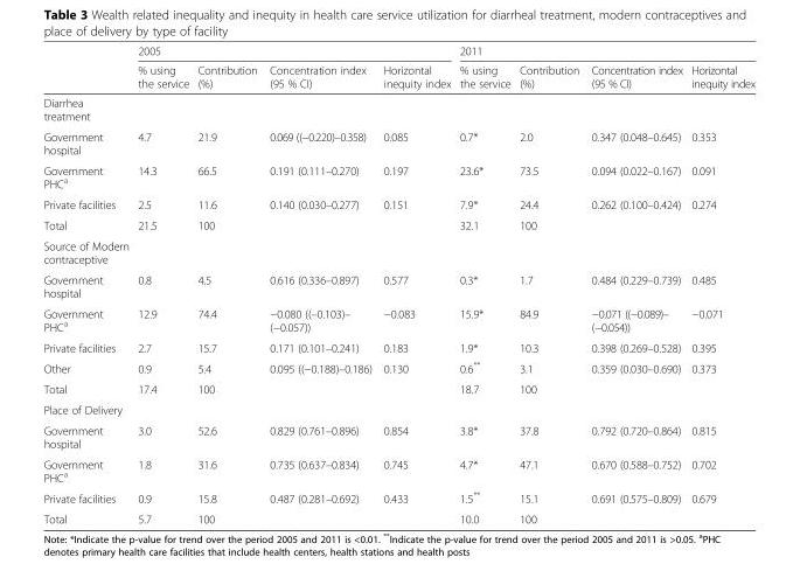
<table><thead><tr><td rowspan="2"></td><td colspan="4">2005</td><td colspan="4">2011</td></tr><tr><td>% using the service</td><td>Contribution (%)</td><td>Concentration index (95 % CI)</td><td>Horizontal inequity index</td><td>% using the service</td><td>Contribution (%)</td><td>Concentration index (95 % CI)</td><td>Horizontal inequity index</td></tr></thead><tbody><tr><td colspan="9">Diarrhea treatment</td></tr><tr><td>Government hospital</td><td>4.7</td><td>21.9</td><td>0.069 ((−0.220)–0.358)</td><td>0.085</td><td>0.7*</td><td>2.0</td><td>0.347 (0.048–0.645)</td><td>0.353</td></tr><tr><td>Government PHC<sup>a</sup></td><td>14.3</td><td>66.5</td><td>0.191 (0.111–0.270)</td><td>0.197</td><td>23.6*</td><td>73.5</td><td>0.094 (0.022–0.167)</td><td>0.091</td></tr><tr><td>Private facilities</td><td>2.5</td><td>11.6</td><td>0.140 (0.030–0.277)</td><td>0.151</td><td>7.9*</td><td>24.4</td><td>0.262 (0.100–0.424)</td><td>0.274</td></tr><tr><td>Total</td><td>21.5</td><td>100</td><td></td><td></td><td>32.1</td><td>100</td><td></td><td></td></tr><tr><td colspan="9">Source of Modern contraceptive</td></tr><tr><td>Government hospital</td><td>0.8</td><td>4.5</td><td>0.616 (0.336–0.897)</td><td>0.577</td><td>0.3*</td><td>1.7</td><td>0.484 (0.229–0.739)</td><td>0.485</td></tr><tr><td>Government PHC<sup>a</sup></td><td>12.9</td><td>74.4</td><td>−0.080 ((–0.103)– (−0.057))</td><td>−0.083</td><td>15.9*</td><td>84.9</td><td>−0.071 ((−0.089)– (−0.054))</td><td>−0.071</td></tr><tr><td>Private facilities</td><td>2.7</td><td>15.7</td><td>0.171 (0.101–0.241)</td><td>0.183</td><td>1.9*</td><td>10.3</td><td>0.398 (0.269–0.528)</td><td>0.395</td></tr><tr><td>Other</td><td>0.9</td><td>5.4</td><td>0.095 ((−0.188)–0.186)</td><td>0.130</td><td>0.6**</td><td>3.1</td><td>0.359 (0.030–0.690)</td><td>0.373</td></tr><tr><td>Total</td><td>17.4</td><td>100</td><td></td><td></td><td>18.7</td><td>100</td><td></td><td></td></tr><tr><td colspan="9">Place of Delivery</td></tr><tr><td>Government hospital</td><td>3.0</td><td>52.6</td><td>0.829 (0.761–0.896)</td><td>0.854</td><td>3.8*</td><td>37.8</td><td>0.792 (0.720–0.864)</td><td>0.815</td></tr><tr><td>Government PHC<sup>a</sup></td><td>1.8</td><td>31.6</td><td>0.735 (0.637–0.834)</td><td>0.745</td><td>4.7*</td><td>47.1</td><td>0.670 (0.588–0.752)</td><td>0.702</td></tr><tr><td>Private facilities</td><td>0.9</td><td>15.8</td><td>0.487 (0.281–0.692)</td><td>0.433</td><td>1.5**</td><td>15.1</td><td>0.691 (0.575–0.809)</td><td>0.679</td></tr><tr><td>Total</td><td>5.7</td><td>100</td><td></td><td></td><td>10.0</td><td>100</td><td></td><td></td></tr></tbody></table>